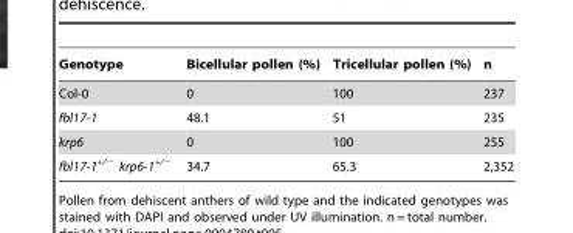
<table><thead><tr><td>Genotype</td><td>Bicellular pollen (%)</td><td>Tricellular pollen (%)</td><td>n</td></tr></thead><tbody><tr><td>Col-0</td><td>0</td><td>100</td><td>237</td></tr><tr><td>fbl17-1</td><td>48.1</td><td>51</td><td>235</td></tr><tr><td>krp6</td><td>0</td><td>100</td><td>255</td></tr><tr><td>fbl17-1<sup>+/−</sup> krp6-1<sup>+/−</sup></td><td>34.7</td><td>65.3</td><td>2,352</td></tr></tbody></table>